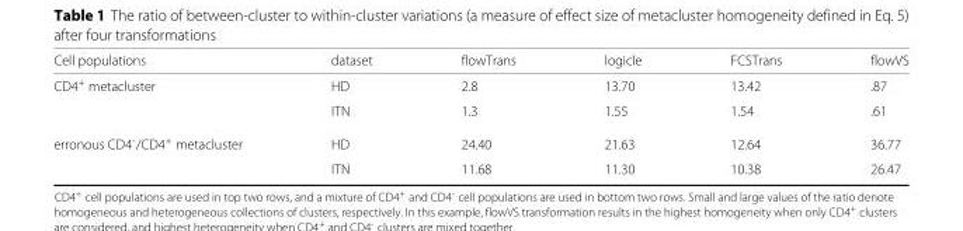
<table><thead><tr><td>Cell populations</td><td>dataset</td><td>flowTrans</td><td>logicle</td><td>FCSTrans</td><td>flowVS</td></tr></thead><tbody><tr><td rowspan="2">CD4<sup>+</sup> metacluster</td><td>HD</td><td>2.8</td><td>13.70</td><td>13.42</td><td>.87</td></tr><tr><td>ITN</td><td>1.3</td><td>1.55</td><td>1.54</td><td>.61</td></tr><tr><td rowspan="2">erronous CD4<sup>-</sup>/CD4<sup>+</sup> metacluster</td><td>HD</td><td>24.40</td><td>21.63</td><td>12.64</td><td>36.77</td></tr><tr><td>ITN</td><td>11.68</td><td>11.30</td><td>10.38</td><td>26.47</td></tr></tbody></table>